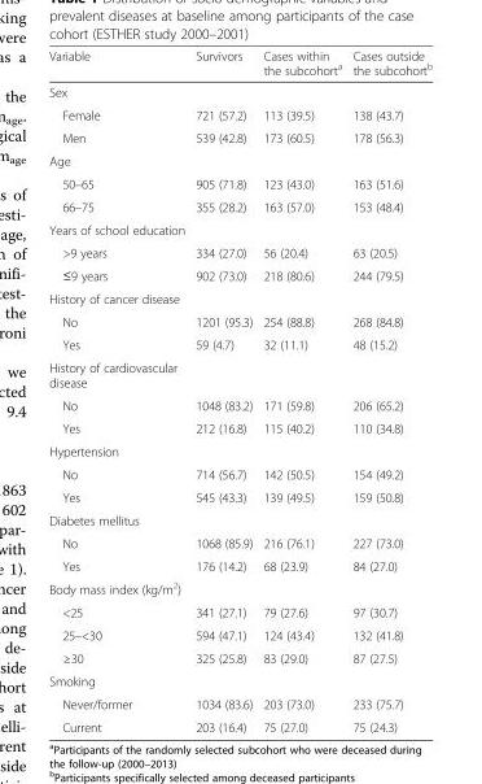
<table><thead><tr><td>Variable</td><td>Survivors</td><td>Cases within the subcohort<sup>a</sup></td><td>Cases outside the subcohort<sup>b</sup></td></tr></thead><tbody><tr><td colspan="4">Sex</td></tr><tr><td>Female</td><td>721 (57.2)</td><td>113 (39.5)</td><td>138 (43.7)</td></tr><tr><td>Men</td><td>539 (42.8)</td><td>173 (60.5)</td><td>178 (56.3)</td></tr><tr><td colspan="4">Age</td></tr><tr><td>50–65</td><td>905 (71.8)</td><td>123 (43.0)</td><td>163 (51.6)</td></tr><tr><td>66–75</td><td>355 (28.2)</td><td>163 (57.0)</td><td>153 (48.4)</td></tr><tr><td colspan="4">Years of school education</td></tr><tr><td>&gt;9 years</td><td>334 (27.0)</td><td>56 (20.4)</td><td>63 (20.5)</td></tr><tr><td>≤9 years</td><td>902 (73.0)</td><td>218 (80.6)</td><td>244 (79.5)</td></tr><tr><td colspan="4">History of cancer disease</td></tr><tr><td>No</td><td>1201 (95.3)</td><td>254 (88.8)</td><td>268 (84.8)</td></tr><tr><td>Yes</td><td>59 (4.7)</td><td>32 (11.1)</td><td>48 (15.2)</td></tr><tr><td colspan="4">History of cardiovascular disease</td></tr><tr><td>No</td><td>1048 (83.2)</td><td>171 (59.8)</td><td>206 (65.2)</td></tr><tr><td>Yes</td><td>212 (16.8)</td><td>115 (40.2)</td><td>110 (34.8)</td></tr><tr><td colspan="4">Hypertension</td></tr><tr><td>No</td><td>714 (56.7)</td><td>142 (50.5)</td><td>154 (49.2)</td></tr><tr><td>Yes</td><td>545 (43.3)</td><td>139 (49.5)</td><td>159 (50.8)</td></tr><tr><td colspan="4">Diabetes mellitus</td></tr><tr><td>No</td><td>1068 (85.9)</td><td>216 (76.1)</td><td>227 (73.0)</td></tr><tr><td>Yes</td><td>176 (14.2)</td><td>68 (23.9)</td><td>84 (27.0)</td></tr><tr><td colspan="4">Body mass index (kg/m<sup>2</sup>)</td></tr><tr><td>&lt;25</td><td>341 (27.1)</td><td>79 (27.6)</td><td>97 (30.7)</td></tr><tr><td>25–&lt;30</td><td>594 (47.1)</td><td>124 (43.4)</td><td>132 (41.8)</td></tr><tr><td>≥30</td><td>325 (25.8)</td><td>83 (29.0)</td><td>87 (27.5)</td></tr><tr><td colspan="4">Smoking</td></tr><tr><td>Never/former</td><td>1034 (83.6)</td><td>203 (73.0)</td><td>233 (75.7)</td></tr><tr><td>Current</td><td>203 (16.4)</td><td>75 (27.0)</td><td>75 (24.3)</td></tr></tbody></table>